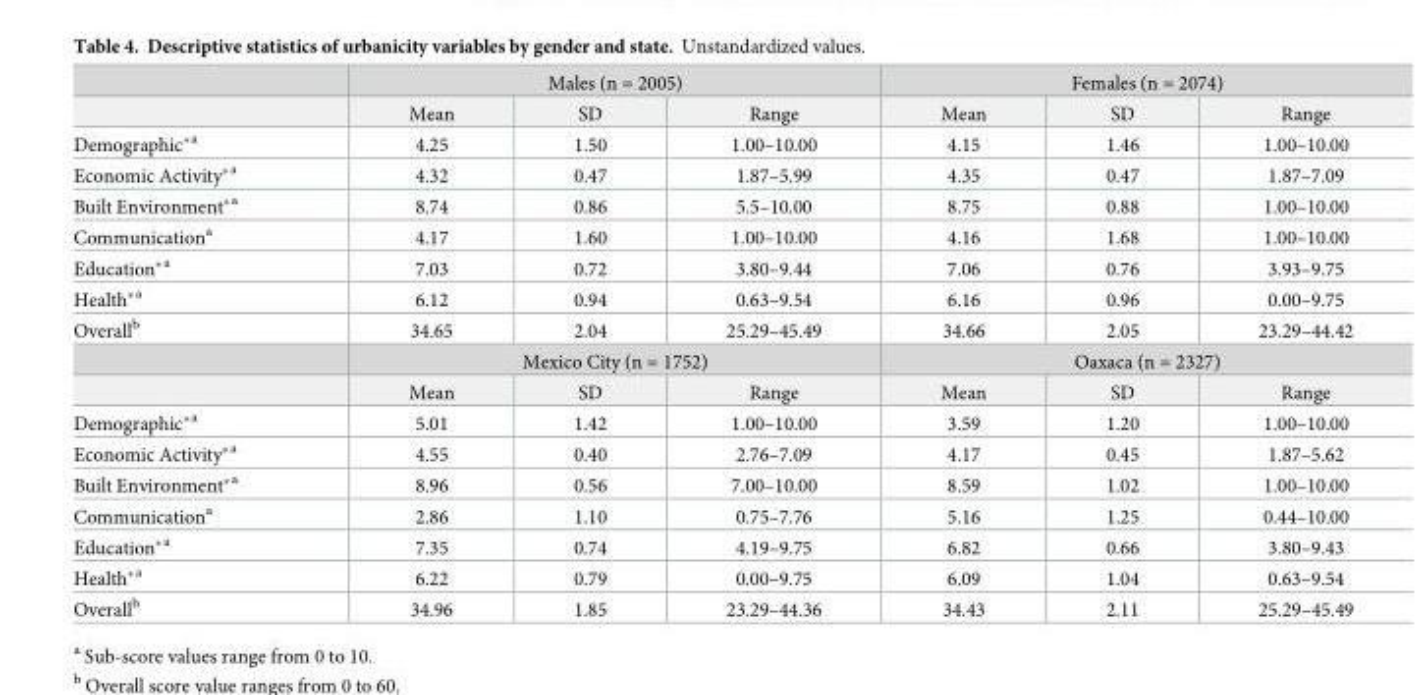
<table><thead><tr><td rowspan="2"></td><td colspan="3">Males (n = 2005)</td><td colspan="3">Females (n = 2074)</td></tr><tr><td>Mean</td><td>SD</td><td>Range</td><td>Mean</td><td>SD</td><td>Range</td></tr></thead><tbody><tr><td>Demographic*<sup>a</sup></td><td>4.25</td><td>1.50</td><td>1.00–10.00</td><td>4.15</td><td>1.46</td><td>1.00–10.00</td></tr><tr><td>Economic Activity*<sup>a</sup></td><td>4.32</td><td>0.47</td><td>1.87–5.99</td><td>4.35</td><td>0.47</td><td>1.87–7.09</td></tr><tr><td>Built Environment*<sup>a</sup></td><td>8.74</td><td>0.86</td><td>5.5–10.00</td><td>8.75</td><td>0.88</td><td>1.00–10.00</td></tr><tr><td>Communication<sup>a</sup></td><td>4.17</td><td>1.60</td><td>1.00–10.00</td><td>4.16</td><td>1.68</td><td>1.00–10.00</td></tr><tr><td>Education*<sup>a</sup></td><td>7.03</td><td>0.72</td><td>3.80–9.44</td><td>7.06</td><td>0.76</td><td>3.93–9.75</td></tr><tr><td>Health*<sup>a</sup></td><td>6.12</td><td>0.94</td><td>0.63–9.54</td><td>6.16</td><td>0.96</td><td>0.00–9.75</td></tr><tr><td rowspan="3">Overall<sup>b</sup></td><td>34.65</td><td>2.04</td><td>25.29–45.49</td><td>34.66</td><td>2.05</td><td>23.29–44.42</td></tr><tr><td colspan="3">Mexico City (n = 1752)</td><td colspan="3">Oaxaca (n = 2327)</td></tr><tr><td>Mean</td><td>SD</td><td>Range</td><td>Mean</td><td>SD</td><td>Range</td></tr><tr><td>Demographic*<sup>a</sup></td><td>5.01</td><td>1.42</td><td>1.00–10.00</td><td>3.59</td><td>1.20</td><td>1.00–10.00</td></tr><tr><td>Economic Activity*<sup>a</sup></td><td>4.55</td><td>0.40</td><td>2.76–7.09</td><td>4.17</td><td>0.45</td><td>1.87–5.62</td></tr><tr><td>Built Environment*<sup>a</sup></td><td>8.96</td><td>0.56</td><td>7.00–10.00</td><td>8.59</td><td>1.02</td><td>1.00–10.00</td></tr><tr><td>Communication<sup>a</sup></td><td>2.86</td><td>1.10</td><td>0.75–7.76</td><td>5.16</td><td>1.25</td><td>0.44–10.00</td></tr><tr><td>Education*<sup>a</sup></td><td>7.35</td><td>0.74</td><td>4.19–9.75</td><td>6.82</td><td>0.66</td><td>3.80–9.43</td></tr><tr><td>Health*<sup>a</sup></td><td>6.22</td><td>0.79</td><td>0.00–9.75</td><td>6.09</td><td>1.04</td><td>0.63–9.54</td></tr><tr><td>Overall<sup>b</sup></td><td>34.96</td><td>1.85</td><td>23.29–44.36</td><td>34.43</td><td>2.11</td><td>25.29–45.49</td></tr></tbody></table>